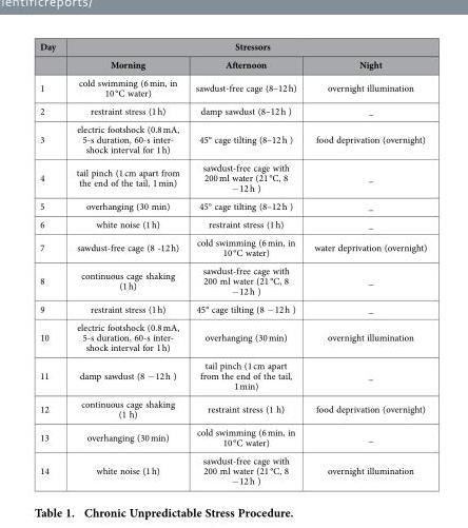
<table><thead><tr><td rowspan="2">Day</td><td colspan="3">Stressors</td></tr><tr><td>Morning</td><td>Afternoon</td><td>Night</td></tr></thead><tbody><tr><td>1</td><td>cold swimming (6 min, in 10 °C water)</td><td>sawdust-free cage (8–12 h)</td><td>overnight illumination</td></tr><tr><td>2</td><td>restraint stress (1 h)</td><td>damp sawdust (8–12 h )</td><td>_</td></tr><tr><td>3</td><td>electric footshock (0.8 mA, 5-s duration, 60-s inter- shock interval for 1 h)</td><td>45° cage tilting (8–12 h )</td><td>food deprivation (overnight)</td></tr><tr><td>4</td><td>tail pinch (1 cm apart from the end of the tail, 1 min)</td><td>sawdust-free cage with 200 ml water (21 °C, 8 − 12 h )</td><td>_</td></tr><tr><td>5</td><td>overhanging (30 min)</td><td>45° cage tilting (8–12 h )</td><td>_</td></tr><tr><td>6</td><td>white noise (1 h)</td><td>restraint stress (1 h)</td><td>_</td></tr><tr><td>7</td><td>sawdust-free cage (8 -12 h)</td><td>cold swimming (6 min, in 10 °C water)</td><td>water deprivation (overnight)</td></tr><tr><td>8</td><td>continuous cage shaking (1 h)</td><td>sawdust-free cage with 200 ml water (21 °C, 8 − 12 h )</td><td>_</td></tr><tr><td>9</td><td>restraint stress (1 h)</td><td>45° cage tilting (8 − 12 h )</td><td>_</td></tr><tr><td>10</td><td>electric footshock (0.8 mA, 5-s duration, 60-s inter- shock interval for 1 h)</td><td>overhanging (30 min)</td><td>overnight illumination</td></tr><tr><td>11</td><td>damp sawdust (8 − 12 h )</td><td>tail pinch (1 cm apart from the end of the tail, 1 min)</td><td>_</td></tr><tr><td>12</td><td>continuous cage shaking (1 h)</td><td>restraint stress (1 h)</td><td>food deprivation (overnight)</td></tr><tr><td>13</td><td>overhanging (30 min)</td><td>cold swimming (6 min, in 10 °C water)</td><td>_</td></tr><tr><td>14</td><td>white noise (1 h)</td><td>sawdust-free cage with 200 ml water (21 °C, 8 − 12 h )</td><td>overnight illumination</td></tr></tbody></table>